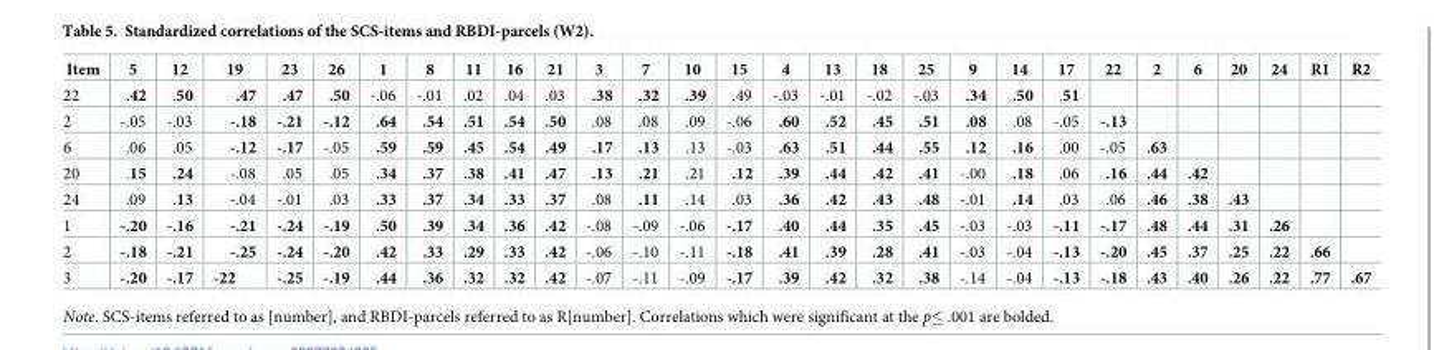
<table><thead><tr><td>Item</td><td>5</td><td>12</td><td>19</td><td>23</td><td>26</td><td>1</td><td>8</td><td>11</td><td>16</td><td>21</td><td>3</td><td>7</td><td>10</td><td>15</td><td>4</td><td>13</td><td>18</td><td>25</td><td>9</td><td>14</td><td>17</td><td>22</td><td>2</td><td>6</td><td>20</td><td>24</td><td>R1</td><td>R2</td></tr></thead><tbody><tr><td>22</td><td>.42</td><td>.50</td><td>.47</td><td>.47</td><td>.50</td><td>-.06</td><td>-.01</td><td>.02</td><td>.04</td><td>.03</td><td>.38</td><td>.32</td><td>.39</td><td>.49</td><td>-.03</td><td>-.01</td><td>-.02</td><td>-.03</td><td>.34</td><td>.50</td><td>.51</td><td></td><td></td><td></td><td></td><td></td><td></td><td></td></tr><tr><td>2</td><td>-.05</td><td>-.03</td><td>-.18</td><td>-.21</td><td>-.12</td><td>.64</td><td>.54</td><td>.51</td><td>.54</td><td>.50</td><td>.08</td><td>.08</td><td>.09</td><td>-.06</td><td>.60</td><td>.52</td><td>.45</td><td>.51</td><td>.08</td><td>.08</td><td>-.05</td><td>-.13</td><td></td><td></td><td></td><td></td><td></td><td></td></tr><tr><td>6</td><td>.06</td><td>.05</td><td>-.12</td><td>-.17</td><td>-.05</td><td>.59</td><td>.59</td><td>.45</td><td>.54</td><td>.49</td><td>.17</td><td>.13</td><td>.13</td><td>-.03</td><td>.63</td><td>.51</td><td>.44</td><td>.55</td><td>.12</td><td>.16</td><td>.00</td><td>-.05</td><td>.63</td><td></td><td></td><td></td><td></td><td></td></tr><tr><td>20</td><td>.15</td><td>.24</td><td>-.08</td><td>.05</td><td>.05</td><td>.34</td><td>.37</td><td>.38</td><td>.41</td><td>.47</td><td>.13</td><td>.21</td><td>.21</td><td>.12</td><td>.39</td><td>.44</td><td>.42</td><td>.41</td><td>-.00</td><td>.18</td><td>.06</td><td>.16</td><td>.44</td><td>.42</td><td></td><td></td><td></td><td></td></tr><tr><td>24</td><td>.09</td><td>.13</td><td>-.04</td><td>-.01</td><td>.03</td><td>.33</td><td>.37</td><td>.34</td><td>.33</td><td>.37</td><td>.08</td><td>.11</td><td>.14</td><td>.03</td><td>.36</td><td>.42</td><td>.43</td><td>.48</td><td>-.01</td><td>.14</td><td>.03</td><td>.06</td><td>.46</td><td>.38</td><td>.43</td><td></td><td></td><td></td></tr><tr><td>1</td><td>-.20</td><td>-.16</td><td>-.21</td><td>-.24</td><td>-.19</td><td>.50</td><td>.39</td><td>.34</td><td>.36</td><td>.42</td><td>-.08</td><td>-.09</td><td>-.06</td><td>-.17</td><td>.40</td><td>.44</td><td>.35</td><td>.45</td><td>-.03</td><td>-.03</td><td>-.11</td><td>-.17</td><td>.48</td><td>.44</td><td>.31</td><td>.26</td><td></td><td></td></tr><tr><td>2</td><td>-.18</td><td>-.21</td><td>-.25</td><td>-.24</td><td>-.20</td><td>.42</td><td>.33</td><td>.29</td><td>.33</td><td>.42</td><td>-.06</td><td>-.10</td><td>-.11</td><td>-.18</td><td>.41</td><td>.39</td><td>.28</td><td>.41</td><td>-.03</td><td>-.04</td><td>-.13</td><td>-.20</td><td>.45</td><td>.37</td><td>.25</td><td>.22</td><td>.66</td><td></td></tr><tr><td>3</td><td>-.20</td><td>-.17</td><td>-22</td><td>-.25</td><td>-.19</td><td>.44</td><td>.36</td><td>.32</td><td>.32</td><td>.42</td><td>-.07</td><td>-.11</td><td>-.09</td><td>-.17</td><td>.39</td><td>.42</td><td>.32</td><td>.38</td><td>-.14</td><td>-.04</td><td>-.13</td><td>-.18</td><td>.43</td><td>.40</td><td>.26</td><td>.22</td><td>.77</td><td>.67</td></tr></tbody></table>